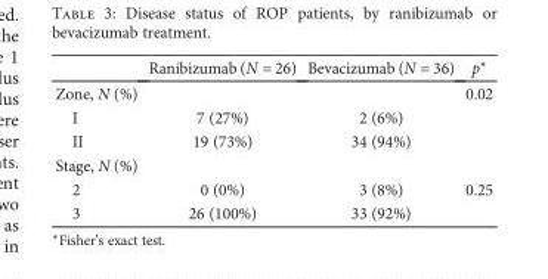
<table><thead><tr><td></td><td>Ranibizumab (N = 26)</td><td>Bevacizumab (N = 36)</td><td>p∗</td></tr></thead><tbody><tr><td>Zone, N (%)</td><td></td><td></td><td>0.02</td></tr><tr><td>I</td><td>7 (27%)</td><td>2 (6%)</td><td></td></tr><tr><td>II</td><td>19 (73%)</td><td>34 (94%)</td><td></td></tr><tr><td colspan="4">Stage, N (%)</td></tr><tr><td>2</td><td>0 (0%)</td><td>3 (8%)</td><td>0.25</td></tr><tr><td>3</td><td>26 (100%)</td><td>33 (92%)</td><td></td></tr></tbody></table>